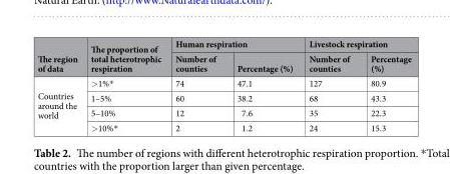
<table><thead><tr><td rowspan="2">The region of data</td><td rowspan="2">The proportion of total heterotrophic respiration</td><td colspan="2">Human respiration</td><td colspan="2">Livestock respiration</td></tr><tr><td>Number of counties</td><td>Percentage (%)</td><td>Number of counties</td><td>Percentage (%)</td></tr></thead><tbody><tr><td rowspan="4">Countries around the world</td><td>&gt;1%*</td><td>74</td><td>47.1</td><td>127</td><td>80.9</td></tr><tr><td>1–5%</td><td>60</td><td>38.2</td><td>68</td><td>43.3</td></tr><tr><td>5–10%</td><td>12</td><td>7.6</td><td>35</td><td>22.3</td></tr><tr><td>&gt;10%*</td><td>2</td><td>1.2</td><td>24</td><td>15.3</td></tr></tbody></table>